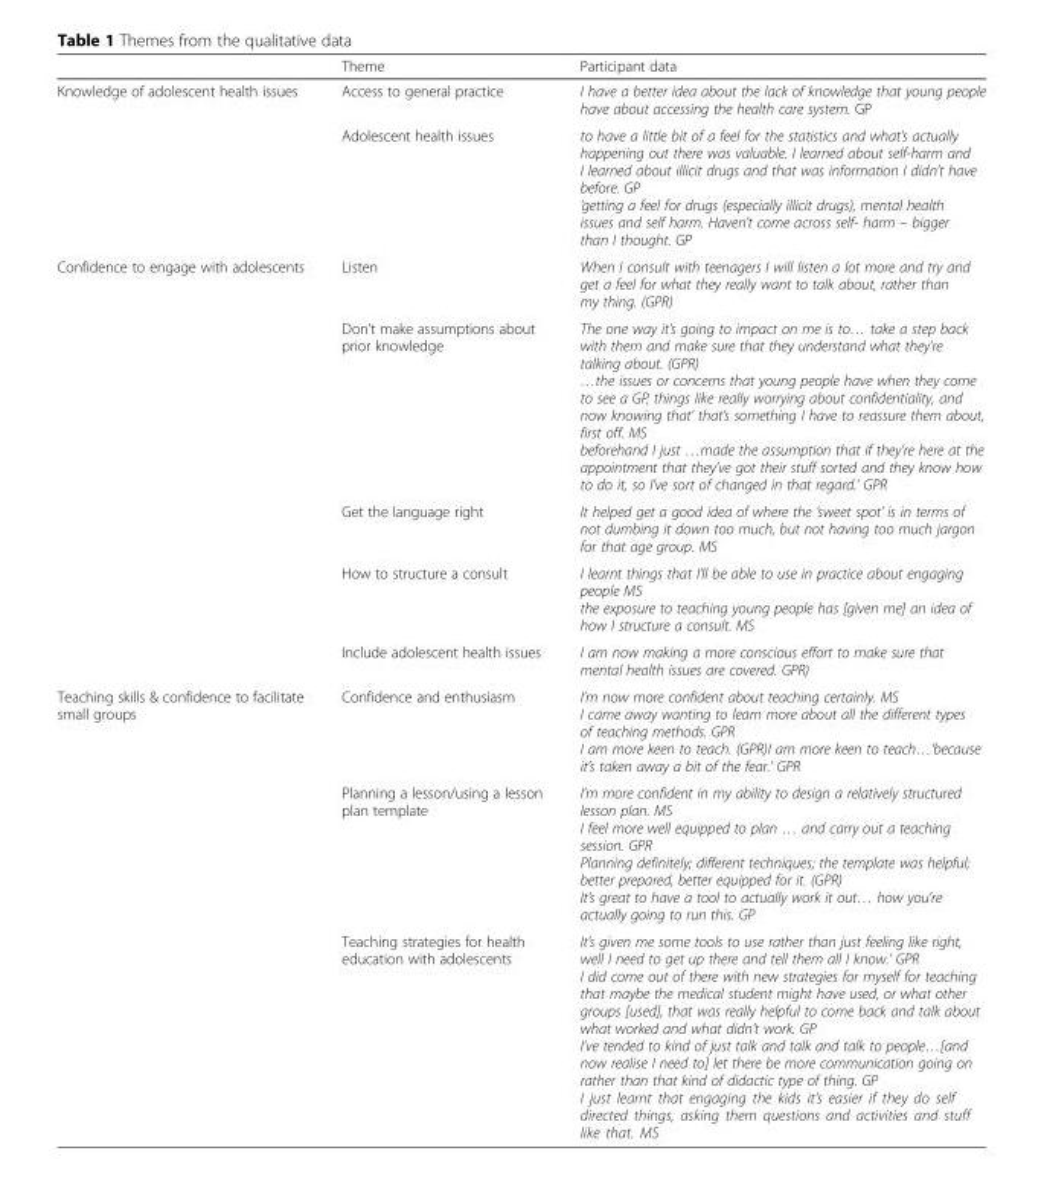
<table><thead><tr><td></td><td>Theme</td><td>Participant data</td></tr></thead><tbody><tr><td rowspan="2">Knowledge of adolescent health issues</td><td>Access to general practice</td><td>I have a better idea about the lack of knowledge that young people have about accessing the health care system. GP</td></tr><tr><td>Adolescent health issues</td><td>to have a little bit of a feel for the statistics and what’s actually happening out there was valuable. I learned about self-harm and I learned about illicit drugs and that was information I didn’t have before. GP ‘getting a feel for drugs (especially illicit drugs), mental health issues and self harm. Haven’t come across self- harm – bigger than I thought. GP</td></tr><tr><td rowspan="5">Confidence to engage with adolescents</td><td>Listen</td><td>When I consult with teenagers I will listen a lot more and try and get a feel for what they really want to talk about, rather than my thing. (GPR)</td></tr><tr><td>Don’t make assumptions about prior knowledge</td><td>The one way it’s going to impact on me is to… take a step back with them and make sure that they understand what they’re talking about. (GPR) …the issues or concerns that young people have when they come to see a GP, things like really worrying about confidentiality, and now knowing that’ that’s something I have to reassure them about, first off. MS beforehand I just …made the assumption that if they’re here at the appointment that they’ve got their stuff sorted and they know how to do it, so I’ve sort of changed in that regard.’ GPR</td></tr><tr><td>Get the language right</td><td>It helped get a good idea of where the ‘sweet spot’ is in terms of not dumbing it down too much, but not having too much jargon for that age group. MS</td></tr><tr><td>How to structure a consult</td><td>I learnt things that I’ll be able to use in practice about engaging people MS the exposure to teaching young people has [given me] an idea of how I structure a consult. MS</td></tr><tr><td>Include adolescent health issues</td><td>I am now making a more conscious effort to make sure that mental health issues are covered. GPR)</td></tr><tr><td rowspan="3">Teaching skills &amp; confidence to facilitate small groups</td><td>Confidence and enthusiasm</td><td>I’m now more confident about teaching certainly. MS I came away wanting to learn more about all the different types of teaching methods. GPR I am more keen to teach. (GPR)I am more keen to teach…‘because it’s taken away a bit of the fear.’ GPR</td></tr><tr><td>Planning a lesson/using a lesson plan template</td><td>I’m more confident in my ability to design a relatively structured lesson plan. MS I feel more well equipped to plan … and carry out a teaching session. GPR Planning definitely; different techniques; the template was helpful; better prepared, better equipped for it. (GPR) It’s great to have a tool to actually work it out… how you’re actually going to run this. GP</td></tr><tr><td>Teaching strategies for health education with adolescents</td><td>It’s given me some tools to use rather than just feeling like right, well I need to get up there and tell them all I know.’ GPR I did come out of there with new strategies for myself for teaching that maybe the medical student might have used, or what other groups [used], that was really helpful to come back and talk about what worked and what didn’t work. GP I’ve tended to kind of just talk and talk and talk to people…[and now realise I need to] let there be more communication going on rather than that kind of didactic type of thing. GP I just learnt that engaging the kids it’s easier if they do self directed things, asking them questions and activities and stuff like that. MS</td></tr></tbody></table>